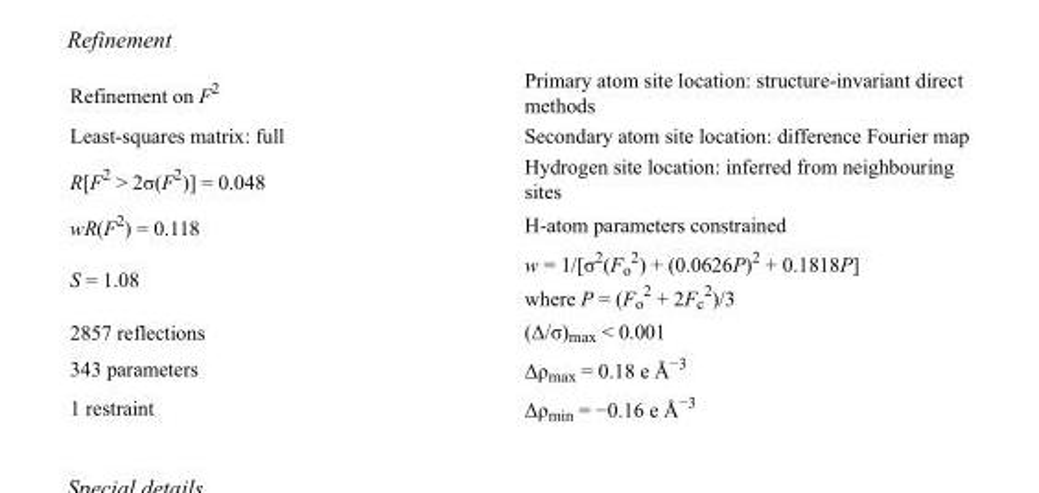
<table><tbody><tr><td>Refinement on F<sup>2</sup></td><td>Primary atom site location: structure-invariant direct methods</td></tr><tr><td>Least-squares matrix: full</td><td>Secondary atom site location: difference Fourier map</td></tr><tr><td>R[F<sup>2</sup> &gt; 2σ(F<sup>2</sup>)] = 0.048</td><td>Hydrogen site location: inferred from neighbouring sites</td></tr><tr><td>wR(F<sup>2</sup>) = 0.118</td><td>H-atom parameters constrained</td></tr><tr><td>S = 1.08</td><td>w = 1/[σ<sup>2</sup>(F<sub>o</sub> <sup>2</sup>) + (0.0626P)<sup>2</sup> + 0.1818P] where P = (F<sub>o</sub> <sup>2</sup> + 2F<sub>c</sub> <sup>2</sup>)/3</td></tr><tr><td>2857 reflections</td><td>(Δ/σ)<sub>max</sub> &lt; 0.001</td></tr><tr><td>343 parameters</td><td>Δρ<sub>max</sub> = 0.18 e Å<sup>−3</sup></td></tr><tr><td>1 restraint</td><td>Δρ<sub>min</sub> = −0.16 e Å<sup>−3</sup></td></tr></tbody></table>